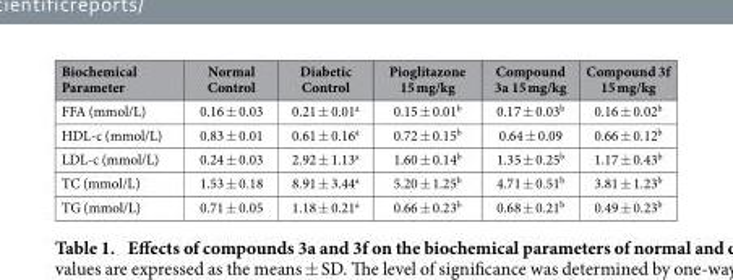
<table><thead><tr><td>Biochemical Parameter</td><td>Normal Control</td><td>Diabetic Control</td><td>Pioglitazone 15 mg/kg</td><td>Compound 3a 15 mg/kg</td><td>Compound 3f 15 mg/kg</td></tr></thead><tbody><tr><td>FFA (mmol/L)</td><td>0.16 ± 0.03</td><td>0.21 ± 0.01<sup>a</sup></td><td>0.15 ± 0.01<sup>b</sup></td><td>0.17 ± 0.03<sup>b</sup></td><td>0.16 ± 0.02<sup>b</sup></td></tr><tr><td>HDL-c (mmol/L)</td><td>0.83 ± 0.01</td><td>0.61 ± 0.16<sup>a</sup></td><td>0.72 ± 0.15<sup>b</sup></td><td>0.64 ± 0.09</td><td>0.66 ± 0.12<sup>b</sup></td></tr><tr><td>LDL-c (mmol/L)</td><td>0.24 ± 0.03</td><td>2.92 ± 1.13<sup>a</sup></td><td>1.60 ± 0.14<sup>b</sup></td><td>1.35 ± 0.25<sup>b</sup></td><td>1.17 ± 0.43<sup>b</sup></td></tr><tr><td>TC (mmol/L)</td><td>1.53 ± 0.18</td><td>8.91 ± 3.44<sup>a</sup></td><td>5.20 ± 1.25<sup>b</sup></td><td>4.71 ± 0.51<sup>b</sup></td><td>3.81 ± 1.23<sup>b</sup></td></tr><tr><td>TG (mmol/L)</td><td>0.71 ± 0.05</td><td>1.18 ± 0.21<sup>a</sup></td><td>0.66 ± 0.23<sup>b</sup></td><td>0.68 ± 0.21<sup>b</sup></td><td>0.49 ± 0.23<sup>b</sup></td></tr></tbody></table>